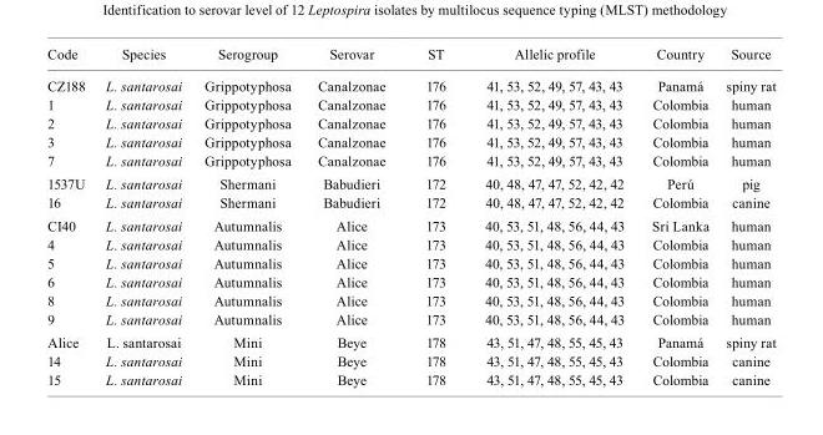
<table><thead><tr><td>Code</td><td>Species</td><td>Serogroup</td><td>Serovar</td><td>ST</td><td>Allelic profile</td><td>Country</td><td>Source</td></tr></thead><tbody><tr><td>CZ188</td><td>L. santarosai</td><td>Grippotyphosa</td><td>Canalzonae</td><td>176</td><td>41, 53, 52, 49, 57, 43, 43</td><td>Panamá</td><td>spiny rat</td></tr><tr><td>1</td><td>L. santarosai</td><td>Grippotyphosa</td><td>Canalzonae</td><td>176</td><td>41, 53, 52, 49, 57, 43, 43</td><td>Colombia</td><td>human</td></tr><tr><td>2</td><td>L. santarosai</td><td>Grippotyphosa</td><td>Canalzonae</td><td>176</td><td>41, 53, 52, 49, 57, 43, 43</td><td>Colombia</td><td>human</td></tr><tr><td>3</td><td>L. santarosai</td><td>Grippotyphosa</td><td>Canalzonae</td><td>176</td><td>41, 53, 52, 49, 57, 43, 43</td><td>Colombia</td><td>human</td></tr><tr><td>7</td><td>L. santarosai</td><td>Grippotyphosa</td><td>Canalzonae</td><td>176</td><td>41, 53, 52, 49, 57, 43, 43</td><td>Colombia</td><td>human</td></tr><tr><td>1537U</td><td>L. santarosai</td><td>Shermani</td><td>Babudieri</td><td>172</td><td>40, 48, 47, 47, 52, 42, 42</td><td>Perú</td><td>pig</td></tr><tr><td>16</td><td>L. santarosai</td><td>Shermani</td><td>Babudieri</td><td>172</td><td>40, 48, 47, 47, 52, 42, 42</td><td>Colombia</td><td>canine</td></tr><tr><td>CI40</td><td>L. santarosai</td><td>Autumnalis</td><td>Alice</td><td>173</td><td>40, 53, 51, 48, 56, 44, 43</td><td>Sri Lanka</td><td>human</td></tr><tr><td>4</td><td>L. santarosai</td><td>Autumnalis</td><td>Alice</td><td>173</td><td>40, 53, 51, 48, 56, 44, 43</td><td>Colombia</td><td>human</td></tr><tr><td>5</td><td>L. santarosai</td><td>Autumnalis</td><td>Alice</td><td>173</td><td>40, 53, 51, 48, 56, 44, 43</td><td>Colombia</td><td>human</td></tr><tr><td>6</td><td>L. santarosai</td><td>Autumnalis</td><td>Alice</td><td>173</td><td>40, 53, 51, 48, 56, 44, 43</td><td>Colombia</td><td>human</td></tr><tr><td>8</td><td>L. santarosai</td><td>Autumnalis</td><td>Alice</td><td>173</td><td>40, 53, 51, 48, 56, 44, 43</td><td>Colombia</td><td>human</td></tr><tr><td>9</td><td>L. santarosai</td><td>Autumnalis</td><td>Alice</td><td>173</td><td>40, 53, 51, 48, 56, 44, 43</td><td>Colombia</td><td>human</td></tr><tr><td>Alice</td><td>L. santarosai</td><td>Mini</td><td>Beye</td><td>178</td><td>43, 51, 47, 48, 55, 45, 43</td><td>Panamá</td><td>spiny rat</td></tr><tr><td>14</td><td>L. santarosai</td><td>Mini</td><td>Beye</td><td>178</td><td>43, 51, 47, 48, 55, 45, 43</td><td>Colombia</td><td>canine</td></tr><tr><td>15</td><td>L. santarosai</td><td>Mini</td><td>Beye</td><td>178</td><td>43, 51, 47, 48, 55, 45, 43</td><td>Colombia</td><td>canine</td></tr></tbody></table>